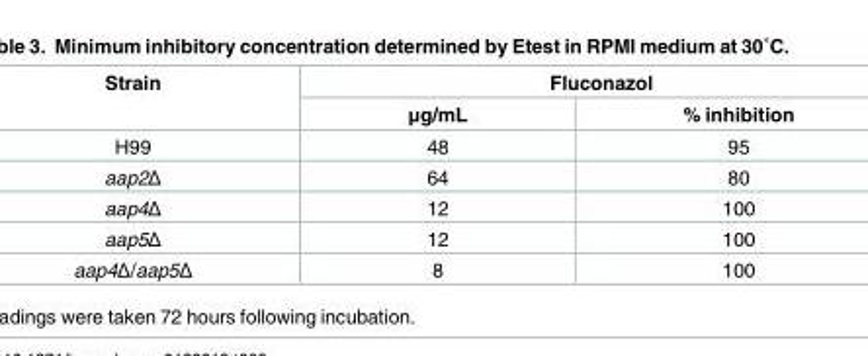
<table><thead><tr><td rowspan="2">Strain</td><td colspan="2">Fluconazol</td></tr><tr><td>μg/mL</td><td>% inhibition</td></tr></thead><tbody><tr><td>H99</td><td>48</td><td>95</td></tr><tr><td>aap2Δ</td><td>64</td><td>80</td></tr><tr><td>aap4Δ</td><td>12</td><td>100</td></tr><tr><td>aap5Δ</td><td>12</td><td>100</td></tr><tr><td>aap4Δ/aap5Δ</td><td>8</td><td>100</td></tr></tbody></table>